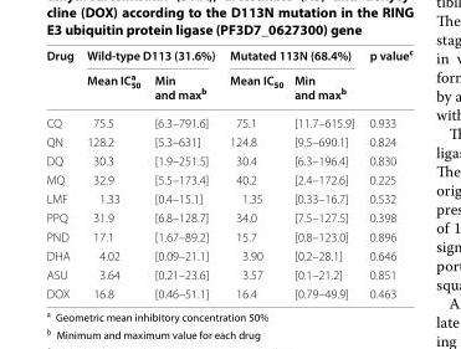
<table><thead><tr><td rowspan="2">Drug</td><td colspan="2">Wild-type D113 (31.6%)</td><td colspan="2">Mutated 113N (68.4%)</td><td rowspan="2">p value<sup>c</sup></td></tr><tr><td>Mean ICa 50</td><td>Min and max<sup>b</sup></td><td>Mean IC<sub>50</sub></td><td>Min and max<sup>b</sup></td></tr></thead><tbody><tr><td>CQ</td><td>75.5</td><td>[6.3–791.6]</td><td>75.1</td><td>[11.7–615.9]</td><td>0.933</td></tr><tr><td>QN</td><td>128.2</td><td>[5.3–631]</td><td>124.8</td><td>[9.5–690.1]</td><td>0.824</td></tr><tr><td>DQ</td><td>30.3</td><td>[1.9–251.5]</td><td>30.4</td><td>[6.3–196.4]</td><td>0.830</td></tr><tr><td>MQ</td><td>32.9</td><td>[5.5–173.4]</td><td>40.2</td><td>[2.4–172.6]</td><td>0.225</td></tr><tr><td>LMF</td><td>1.33</td><td>[0.4–15.1]</td><td>1.35</td><td>[0.33–16.7]</td><td>0.532</td></tr><tr><td>PPQ</td><td>31.9</td><td>[6.8–128.7]</td><td>34.0</td><td>[7.5–127.5]</td><td>0.398</td></tr><tr><td>PND</td><td>17.1</td><td>[1.67–89.2]</td><td>15.7</td><td>[0.8–123.0]</td><td>0.896</td></tr><tr><td>DHA</td><td>4.02</td><td>[0.09–21.1]</td><td>3.90</td><td>[0.2–28.1]</td><td>0.646</td></tr><tr><td>ASU</td><td>3.64</td><td>[0.21–23.6]</td><td>3.57</td><td>[0.1–21.2]</td><td>0.851</td></tr><tr><td>DOX</td><td>16.8</td><td>[0.46–51.1]</td><td>16.4</td><td>[0.79–49.9]</td><td>0.463</td></tr></tbody></table>